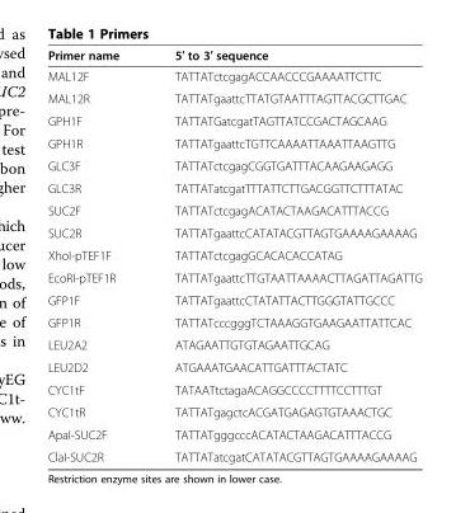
<table><thead><tr><td>Primer name</td><td>5′ to 3′ sequence</td></tr></thead><tbody><tr><td>MAL12F</td><td>TATTATctcgagACCAACCCGAAAATTCTTC</td></tr><tr><td>MAL12R</td><td>TATTATgaattcTTATGTAATTTAGTTACGCTTGAC</td></tr><tr><td>GPH1F</td><td>TATTATGatcgatTAGTTATCCGACTAGCAAG</td></tr><tr><td>GPH1R</td><td>TATTATgaattcTGTTCAAAATTAAATTAAGTTG</td></tr><tr><td>GLC3F</td><td>TATTATctcgagCGGTGATTTACAAGAAGAGG</td></tr><tr><td>GLC3R</td><td>TATTATatcgatTTTATTCTTGACGGTTCTTTATAC</td></tr><tr><td>SUC2F</td><td>TATTATctcgagACATACTAAGACATTTACCG</td></tr><tr><td>SUC2R</td><td>TATTATgaattcCATATACGTTAGTGAAAAGAAAAG</td></tr><tr><td>XhoI-pTEF1F</td><td>TATTATctcgagGCACACACCATAG</td></tr><tr><td>EcoRI-pTEF1R</td><td>TATTATgaattcTTGTAATTAAAACTTAGATTAGATTG</td></tr><tr><td>GFP1F</td><td>TATTATgaattcCTATATTACTTGGGTATTGCCC</td></tr><tr><td>GFP1R</td><td>TATTATcccgggTCTAAAGGTGAAGAATTATTCAC</td></tr><tr><td>LEU2A2</td><td>ATAGAATTGTGTAGAATTGCAG</td></tr><tr><td>LEU2D2</td><td>ATGAAATGAACATTGATTTACTATC</td></tr><tr><td>CYC1tF</td><td>TATAATtctagaACAGGCCCCTTTTCCTTTGT</td></tr><tr><td>CYC1tR</td><td>TATTATgagctcACGATGAGAGTGTAAACTGC</td></tr><tr><td>ApaI-SUC2F</td><td>TATTATgggcccACATACTAAGACATTTACCG</td></tr><tr><td>ClaI-SUC2R</td><td>TATTATatcgatCATATACGTTAGTGAAAAGAAAAG</td></tr></tbody></table>